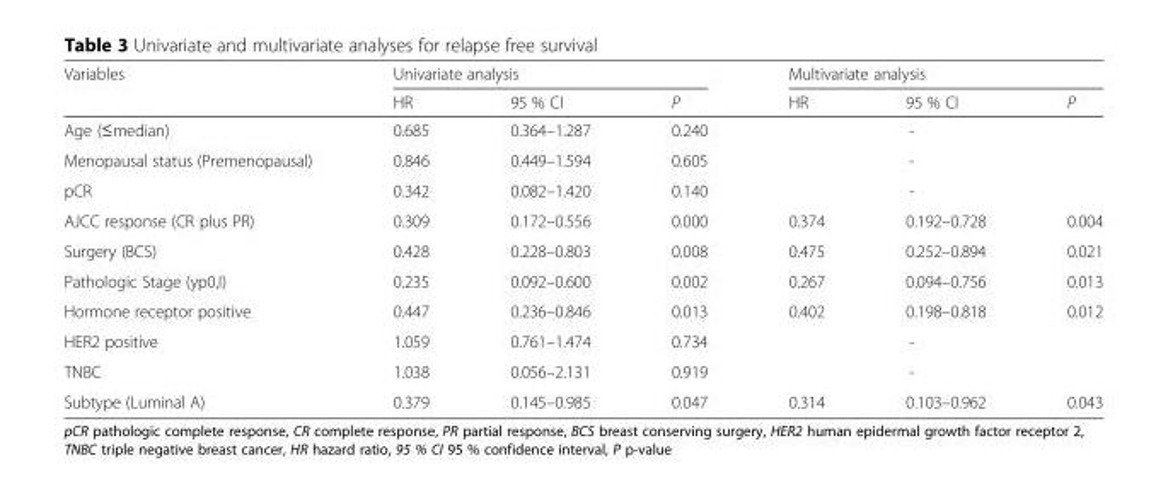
<table><thead><tr><td rowspan="2">Variables</td><td colspan="3">Univariate analysis</td><td colspan="3">Multivariate analysis</td></tr><tr><td>HR</td><td>95 % CI</td><td>P</td><td>HR</td><td>95 % CI</td><td>P</td></tr></thead><tbody><tr><td>Age (≤median)</td><td>0.685</td><td>0.364–1.287</td><td>0.240</td><td></td><td>-</td><td></td></tr><tr><td>Menopausal status (Premenopausal)</td><td>0.846</td><td>0.449–1.594</td><td>0.605</td><td></td><td>-</td><td></td></tr><tr><td>pCR</td><td>0.342</td><td>0.082–1.420</td><td>0.140</td><td></td><td>-</td><td></td></tr><tr><td>AJCC response (CR plus PR)</td><td>0.309</td><td>0.172–0.556</td><td>0.000</td><td>0.374</td><td>0.192–0.728</td><td>0.004</td></tr><tr><td>Surgery (BCS)</td><td>0.428</td><td>0.228–0.803</td><td>0.008</td><td>0.475</td><td>0.252–0.894</td><td>0.021</td></tr><tr><td>Pathologic Stage (yp0,I)</td><td>0.235</td><td>0.092–0.600</td><td>0.002</td><td>0.267</td><td>0.094–0.756</td><td>0.013</td></tr><tr><td>Hormone receptor positive</td><td>0.447</td><td>0.236–0.846</td><td>0.013</td><td>0.402</td><td>0.198–0.818</td><td>0.012</td></tr><tr><td>HER2 positive</td><td>1.059</td><td>0.761–1.474</td><td>0.734</td><td></td><td>-</td><td></td></tr><tr><td>TNBC</td><td>1.038</td><td>0.056–2.131</td><td>0.919</td><td></td><td>-</td><td></td></tr><tr><td>Subtype (Luminal A)</td><td>0.379</td><td>0.145–0.985</td><td>0.047</td><td>0.314</td><td>0.103–0.962</td><td>0.043</td></tr></tbody></table>